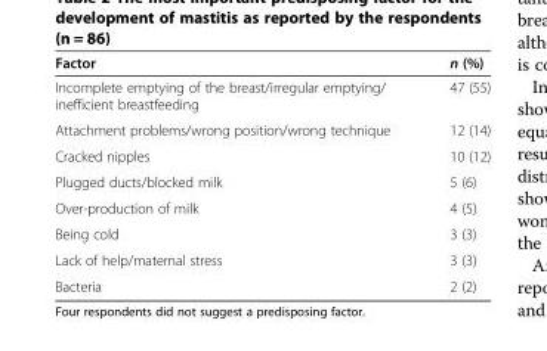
<table><thead><tr><td>Factor</td><td>n (%)</td></tr></thead><tbody><tr><td>Incomplete emptying of the breast/irregular emptying/ inefficient breastfeeding</td><td>47 (55)</td></tr><tr><td>Attachment problems/wrong position/wrong technique</td><td>12 (14)</td></tr><tr><td>Cracked nipples</td><td>10 (12)</td></tr><tr><td>Plugged ducts/blocked milk</td><td>5 (6)</td></tr><tr><td>Over-production of milk</td><td>4 (5)</td></tr><tr><td>Being cold</td><td>3 (3)</td></tr><tr><td>Lack of help/maternal stress</td><td>3 (3)</td></tr><tr><td>Bacteria</td><td>2 (2)</td></tr></tbody></table>